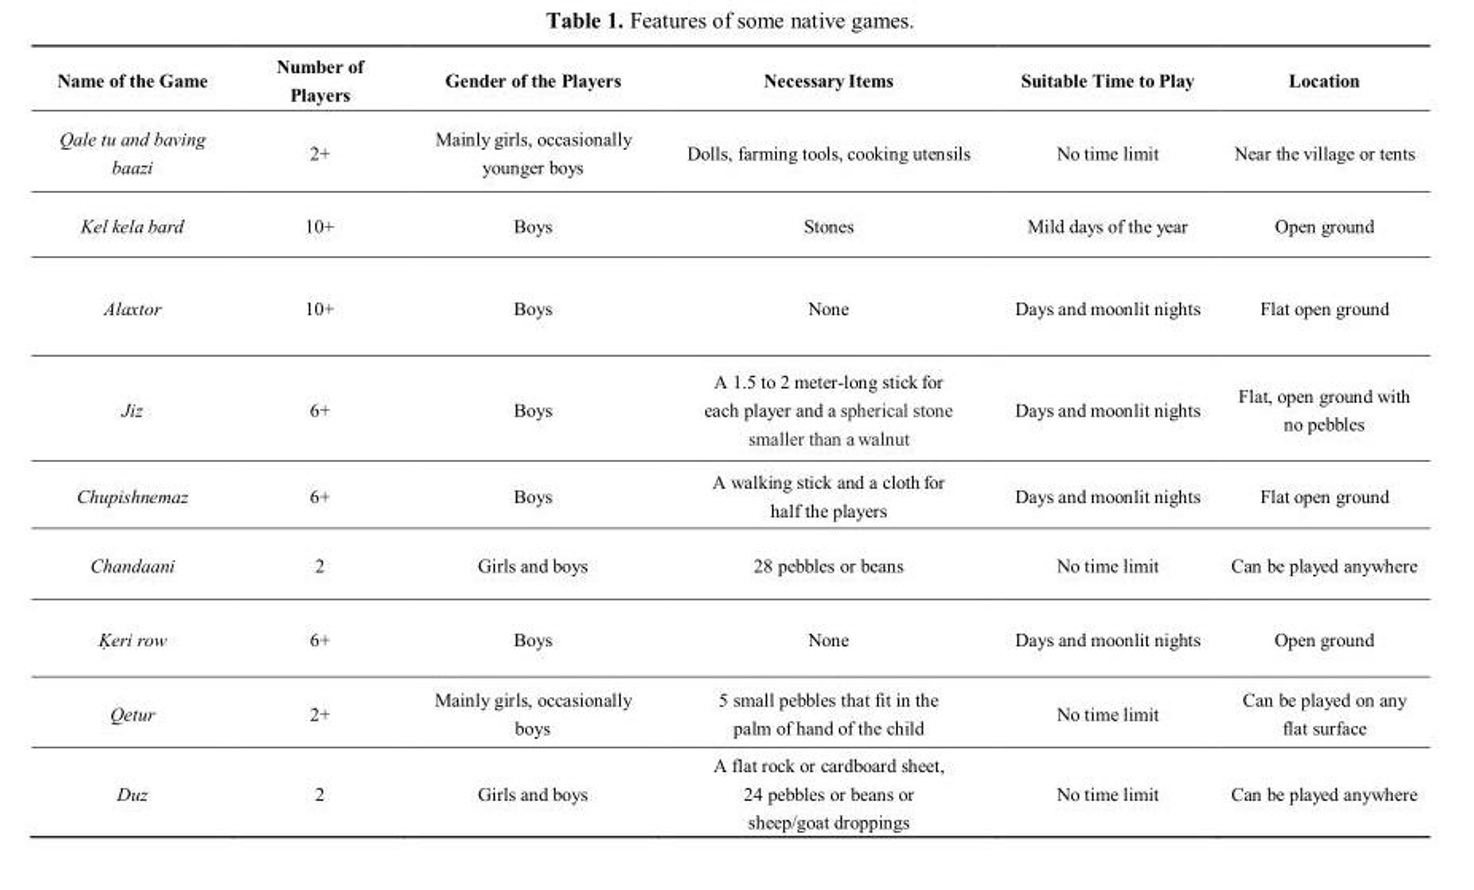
<table><thead><tr><td>Name of the Game</td><td>Number of Players</td><td>Gender of the Players</td><td>Necessary Items</td><td>Suitable Time to Play</td><td>Location</td></tr></thead><tbody><tr><td>Qale tu and baving baazi</td><td>2+</td><td>Mainly girls, occasionally younger boys</td><td>Dolls, farming tools, cooking utensils</td><td>No time limit</td><td>Near the village or tents</td></tr><tr><td>Kel kela bard</td><td>10+</td><td>Boys</td><td>Stones</td><td>Mild days of the year</td><td>Open ground</td></tr><tr><td>Alaxtor</td><td>10+</td><td>Boys</td><td>None</td><td>Days and moonlit nights</td><td>Flat open ground</td></tr><tr><td>Jiz</td><td>6+</td><td>Boys</td><td>A 1.5 to 2 meter-long stick for each player and a spherical stone smaller than a walnut</td><td>Days and moonlit nights</td><td>Flat, open ground with no pebbles</td></tr><tr><td>Chupishnemaz</td><td>6+</td><td>Boys</td><td>A walking stick and a cloth for half the players</td><td>Days and moonlit nights</td><td>Flat open ground</td></tr><tr><td>Chandaani</td><td>2</td><td>Girls and boys</td><td>28 pebbles or beans</td><td>No time limit</td><td>Can be played anywhere</td></tr><tr><td>Ḳeri row</td><td>6+</td><td>Boys</td><td>None</td><td>Days and moonlit nights</td><td>Open ground</td></tr><tr><td>Qetur</td><td>2+</td><td>Mainly girls, occasionally boys</td><td>5 small pebbles that fit in the palm of hand of the child</td><td>No time limit</td><td>Can be played on any flat surface</td></tr><tr><td>Duz</td><td>2</td><td>Girls and boys</td><td>A flat rock or cardboard sheet, 24 pebbles or beans or sheep/goat droppings</td><td>No time limit</td><td>Can be played anywhere</td></tr></tbody></table>